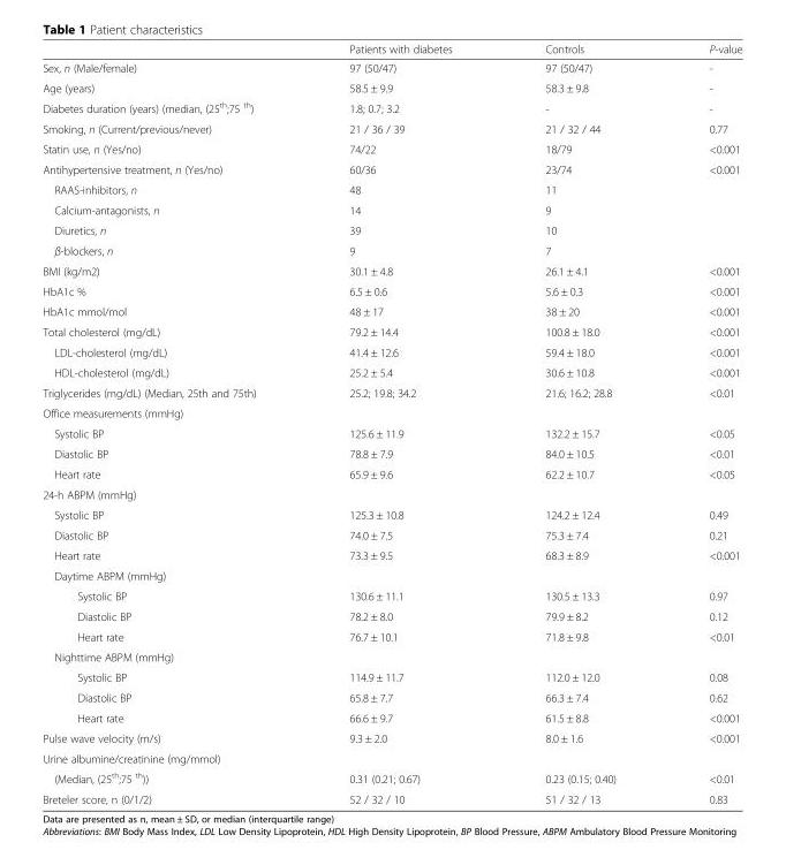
<table><thead><tr><td></td><td>Patients with diabetes</td><td>Controls</td><td>P-value</td></tr></thead><tbody><tr><td>Sex, n (Male/female)</td><td>97 (50/47)</td><td>97 (50/47)</td><td>-</td></tr><tr><td>Age (years)</td><td>58.5 ± 9.9</td><td>58.3 ± 9.8</td><td>-</td></tr><tr><td>Diabetes duration (years) (median, (25<sup>th</sup>;75 <sup>th</sup>)</td><td>1.8; 0.7; 3.2</td><td>-</td><td>-</td></tr><tr><td>Smoking, n (Current/previous/never)</td><td>21 / 36 / 39</td><td>21 / 32 / 44</td><td>0.77</td></tr><tr><td>Statin use, n (Yes/no)</td><td>74/22</td><td>18/79</td><td>&lt;0.001</td></tr><tr><td>Antihypertensive treatment, n (Yes/no)</td><td>60/36</td><td>23/74</td><td>&lt;0.001</td></tr><tr><td>RAAS-inhibitors, n</td><td>48</td><td>11</td><td></td></tr><tr><td>Calcium-antagonists, n</td><td>14</td><td>9</td><td></td></tr><tr><td>Diuretics, n</td><td>39</td><td>10</td><td></td></tr><tr><td>β-blockers, n</td><td>9</td><td>7</td><td></td></tr><tr><td>BMI (kg/m2)</td><td>30.1 ± 4.8</td><td>26.1 ± 4.1</td><td>&lt;0.001</td></tr><tr><td>HbA1c %</td><td>6.5 ± 0.6</td><td>5.6 ± 0.3</td><td>&lt;0.001</td></tr><tr><td>HbA1c mmol/mol</td><td>48 ± 17</td><td>38 ± 20</td><td>&lt;0.001</td></tr><tr><td>Total cholesterol (mg/dL)</td><td>79.2 ± 14.4</td><td>100.8 ± 18.0</td><td>&lt;0.001</td></tr><tr><td>LDL-cholesterol (mg/dL)</td><td>41.4 ± 12.6</td><td>59.4 ± 18.0</td><td>&lt;0.001</td></tr><tr><td>HDL-cholesterol (mg/dL)</td><td>25.2 ± 5.4</td><td>30.6 ± 10.8</td><td>&lt;0.001</td></tr><tr><td>Triglycerides (mg/dL) (Median, 25th and 75th)</td><td>25.2; 19.8; 34.2</td><td>21.6; 16.2; 28.8</td><td>&lt;0.01</td></tr><tr><td colspan="4">Office measurements (mmHg)</td></tr><tr><td>Systolic BP</td><td>125.6 ± 11.9</td><td>132.2 ± 15.7</td><td>&lt;0.05</td></tr><tr><td>Diastolic BP</td><td>78.8 ± 7.9</td><td>84.0 ± 10.5</td><td>&lt;0.01</td></tr><tr><td>Heart rate</td><td>65.9 ± 9.6</td><td>62.2 ± 10.7</td><td>&lt;0.05</td></tr><tr><td colspan="4">24-h ABPM (mmHg)</td></tr><tr><td>Systolic BP</td><td>125.3 ± 10.8</td><td>124.2 ± 12.4</td><td>0.49</td></tr><tr><td>Diastolic BP</td><td>74.0 ± 7.5</td><td>75.3 ± 7.4</td><td>0.21</td></tr><tr><td>Heart rate</td><td>73.3 ± 9.5</td><td>68.3 ± 8.9</td><td>&lt;0.001</td></tr><tr><td colspan="4">Daytime ABPM (mmHg)</td></tr><tr><td>Systolic BP</td><td>130.6 ± 11.1</td><td>130.5 ± 13.3</td><td>0.97</td></tr><tr><td>Diastolic BP</td><td>78.2 ± 8.0</td><td>79.9 ± 8.2</td><td>0.12</td></tr><tr><td>Heart rate</td><td>76.7 ± 10.1</td><td>71.8 ± 9.8</td><td>&lt;0.01</td></tr><tr><td colspan="4">Nighttime ABPM (mmHg)</td></tr><tr><td>Systolic BP</td><td>114.9 ± 11.7</td><td>112.0 ± 12.0</td><td>0.08</td></tr><tr><td>Diastolic BP</td><td>65.8 ± 7.7</td><td>66.3 ± 7.4</td><td>0.62</td></tr><tr><td>Heart rate</td><td>66.6 ± 9.7</td><td>61.5 ± 8.8</td><td>&lt;0.001</td></tr><tr><td>Pulse wave velocity (m/s)</td><td>9.3 ± 2.0</td><td>8.0 ± 1.6</td><td>&lt;0.001</td></tr><tr><td colspan="4">Urine albumine/creatinine (mg/mmol)</td></tr><tr><td>(Median, (25<sup>th</sup>;75 <sup>th</sup>))</td><td>0.31 (0.21; 0.67)</td><td>0.23 (0.15; 0.40)</td><td>&lt;0.01</td></tr><tr><td>Breteler score, n (0/1/2)</td><td>52 / 32 / 10</td><td>51 / 32 / 13</td><td>0.83</td></tr></tbody></table>